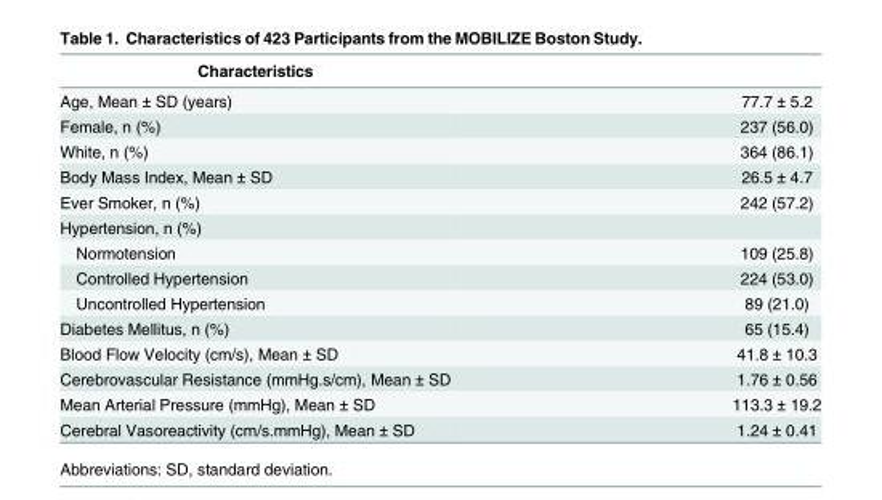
<table><thead><tr><td>Characteristics</td><td></td></tr></thead><tbody><tr><td>Age, Mean ± SD (years)</td><td>77.7 ± 5.2</td></tr><tr><td>Female, n (%)</td><td>237 (56.0)</td></tr><tr><td>White, n (%)</td><td>364 (86.1)</td></tr><tr><td>Body Mass Index, Mean ± SD</td><td>26.5 ± 4.7</td></tr><tr><td>Ever Smoker, n (%)</td><td>242 (57.2)</td></tr><tr><td colspan="2">Hypertension, n (%)</td></tr><tr><td>Normotension</td><td>109 (25.8)</td></tr><tr><td>Controlled Hypertension</td><td>224 (53.0)</td></tr><tr><td>Uncontrolled Hypertension</td><td>89 (21.0)</td></tr><tr><td>Diabetes Mellitus, n (%)</td><td>65 (15.4)</td></tr><tr><td>Blood Flow Velocity (cm/s), Mean ± SD</td><td>41.8 ± 10.3</td></tr><tr><td>Cerebrovascular Resistance (mmHg.s/cm), Mean ± SD</td><td>1.76 ± 0.56</td></tr><tr><td>Mean Arterial Pressure (mmHg), Mean ± SD</td><td>113.3 ± 19.2</td></tr><tr><td>Cerebral Vasoreactivity (cm/s.mmHg), Mean ± SD</td><td>1.24 ± 0.41</td></tr></tbody></table>